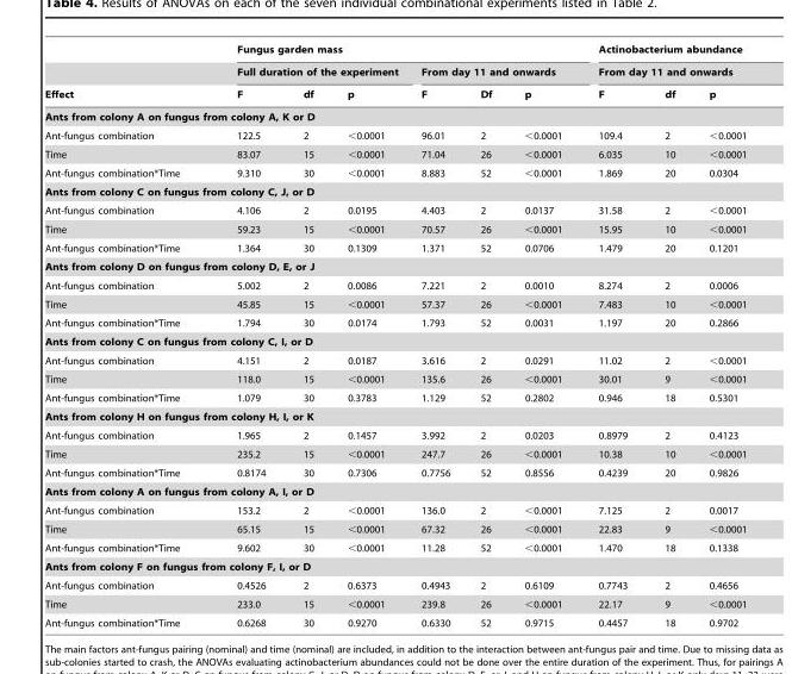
<table><thead><tr><td rowspan="3">Effect</td><td colspan="6">Fungus garden mass</td><td rowspan="2" colspan="3">Actinobacterium abundance From day 11 and onwards</td></tr><tr><td colspan="3">Full duration of the experiment</td><td colspan="3">From day 11 and onwards</td></tr><tr><td>F</td><td>df</td><td>p</td><td>F</td><td>Df</td><td>p</td><td>F</td><td>df</td><td>p</td></tr></thead><tbody><tr><td colspan="10">Ants from colony A on fungus from colony A, K or D</td></tr><tr><td>Ant-fungus combination</td><td>122.5</td><td>2</td><td>&lt;0.0001</td><td>96.01</td><td>2</td><td>&lt;0.0001</td><td>109.4</td><td>2</td><td>&lt;0.0001</td></tr><tr><td>Time</td><td>83.07</td><td>15</td><td>&lt;0.0001</td><td>71.04</td><td>26</td><td>&lt;0.0001</td><td>6.035</td><td>10</td><td>&lt;0.0001</td></tr><tr><td>Ant-fungus combination*Time</td><td>9.310</td><td>30</td><td>&lt;0.0001</td><td>8.883</td><td>52</td><td>&lt;0.0001</td><td>1.869</td><td>20</td><td>0.0304</td></tr><tr><td colspan="10">Ants from colony C on fungus from colony C, J, or D</td></tr><tr><td>Ant-fungus combination</td><td>4.106</td><td>2</td><td>0.0195</td><td>4.403</td><td>2</td><td>0.0137</td><td>31.58</td><td>2</td><td>&lt;0.0001</td></tr><tr><td>Time</td><td>59.23</td><td>15</td><td>&lt;0.0001</td><td>70.57</td><td>26</td><td>&lt;0.0001</td><td>15.95</td><td>10</td><td>&lt;0.0001</td></tr><tr><td>Ant-fungus combination*Time</td><td>1.364</td><td>30</td><td>0.1309</td><td>1.371</td><td>52</td><td>0.0706</td><td>1.479</td><td>20</td><td>0.1201</td></tr><tr><td colspan="10">Ants from colony D on fungus from colony D, E, or J</td></tr><tr><td>Ant-fungus combination</td><td>5.002</td><td>2</td><td>0.0086</td><td>7.221</td><td>2</td><td>0.0010</td><td>8.274</td><td>2</td><td>0.0006</td></tr><tr><td>Time</td><td>45.85</td><td>15</td><td>&lt;0.0001</td><td>57.37</td><td>26</td><td>&lt;0.0001</td><td>7.483</td><td>10</td><td>&lt;0.0001</td></tr><tr><td>Ant-fungus combination*Time</td><td>1.794</td><td>30</td><td>0.0174</td><td>1.793</td><td>52</td><td>0.0031</td><td>1.197</td><td>20</td><td>0.2866</td></tr><tr><td colspan="10">Ants from colony C on fungus from colony C, I, or D</td></tr><tr><td>Ant-fungus combination</td><td>4.151</td><td>2</td><td>0.0187</td><td>3.616</td><td>2</td><td>0.0291</td><td>11.02</td><td>2</td><td>&lt;0.0001</td></tr><tr><td>Time</td><td>118.0</td><td>15</td><td>&lt;0.0001</td><td>135.6</td><td>26</td><td>&lt;0.0001</td><td>30.01</td><td>9</td><td>&lt;0.0001</td></tr><tr><td>Ant-fungus combination*Time</td><td>1.079</td><td>30</td><td>0.3783</td><td>1.129</td><td>52</td><td>0.2802</td><td>0.946</td><td>18</td><td>0.5301</td></tr><tr><td colspan="10">Ants from colony H on fungus from colony H, I, or K</td></tr><tr><td>Ant-fungus combination</td><td>1.965</td><td>2</td><td>0.1457</td><td>3.992</td><td>2</td><td>0.0203</td><td>0.8979</td><td>2</td><td>0.4123</td></tr><tr><td>Time</td><td>235.2</td><td>15</td><td>&lt;0.0001</td><td>247.7</td><td>26</td><td>&lt;0.0001</td><td>10.38</td><td>10</td><td>&lt;0.0001</td></tr><tr><td>Ant-fungus combination*Time</td><td>0.8174</td><td>30</td><td>0.7306</td><td>0.7756</td><td>52</td><td>0.8556</td><td>0.4239</td><td>20</td><td>0.9826</td></tr><tr><td colspan="10">Ants from colony A on fungus from colony A, I, or D</td></tr><tr><td>Ant-fungus combination</td><td>153.2</td><td>2</td><td>&lt;0.0001</td><td>136.0</td><td>2</td><td>&lt;0.0001</td><td>7.125</td><td>2</td><td>0.0017</td></tr><tr><td>Time</td><td>65.15</td><td>15</td><td>&lt;0.0001</td><td>67.32</td><td>26</td><td>&lt;0.0001</td><td>22.83</td><td>9</td><td>&lt;0.0001</td></tr><tr><td>Ant-fungus combination*Time</td><td>9.602</td><td>30</td><td>&lt;0.0001</td><td>11.28</td><td>52</td><td>&lt;0.0001</td><td>1.470</td><td>18</td><td>0.1338</td></tr><tr><td colspan="10">Ants from colony F on fungus from colony F, I, or D</td></tr><tr><td>Ant-fungus combination</td><td>0.4526</td><td>2</td><td>0.6373</td><td>0.4943</td><td>2</td><td>0.6109</td><td>0.7743</td><td>2</td><td>0.4656</td></tr><tr><td>Time</td><td>233.0</td><td>15</td><td>&lt;0.0001</td><td>239.8</td><td>26</td><td>&lt;0.0001</td><td>22.17</td><td>9</td><td>&lt;0.0001</td></tr><tr><td>Ant-fungus combination*Time</td><td>0.6268</td><td>30</td><td>0.9270</td><td>0.6330</td><td>52</td><td>0.9715</td><td>0.4457</td><td>18</td><td>0.9702</td></tr></tbody></table>